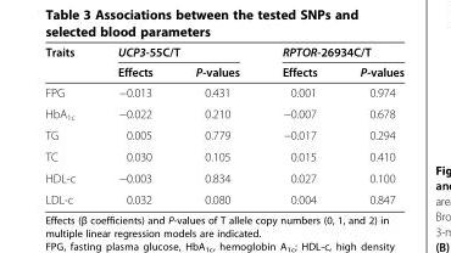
<table><thead><tr><td rowspan="2">Traits</td><td colspan="2">UCP3-55C/T</td><td colspan="2">RPTOR-26934C/T</td></tr><tr><td>Effects</td><td>P-values</td><td>Effects</td><td>P-values</td></tr></thead><tbody><tr><td>FPG</td><td>−0.013</td><td>0.431</td><td>0.001</td><td>0.974</td></tr><tr><td>HbA<sub>1c</sub></td><td>−0.022</td><td>0.210</td><td>−0.007</td><td>0.678</td></tr><tr><td>TG</td><td>0.005</td><td>0.779</td><td>−0.017</td><td>0.294</td></tr><tr><td>TC</td><td>0.030</td><td>0.105</td><td>0.015</td><td>0.410</td></tr><tr><td>HDL-c</td><td>−0.003</td><td>0.834</td><td>0.027</td><td>0.100</td></tr><tr><td>LDL-c</td><td>0.032</td><td>0.080</td><td>0.004</td><td>0.847</td></tr></tbody></table>